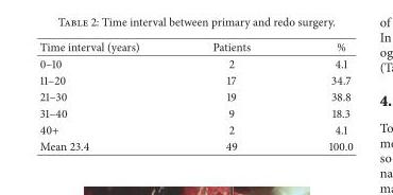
<table><thead><tr><td>Time interval (years)</td><td>Patients</td><td>%</td></tr></thead><tbody><tr><td>0–10</td><td>2</td><td>4.1</td></tr><tr><td>11–20</td><td>17</td><td>34.7</td></tr><tr><td>21–30</td><td>19</td><td>38.8</td></tr><tr><td>31–40</td><td>9</td><td>18.3</td></tr><tr><td>40+</td><td>2</td><td>4.1</td></tr><tr><td>Mean 23.4</td><td>49</td><td>100.0</td></tr></tbody></table>